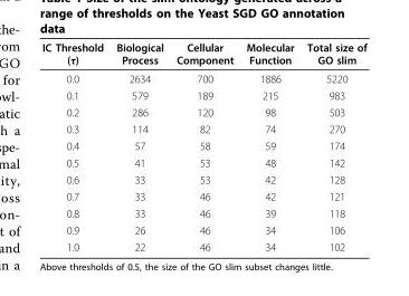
<table><thead><tr><td>IC Threshold (τ)</td><td>Biological Process</td><td>Cellular Component</td><td>Molecular Function</td><td>Total size of GO slim</td></tr></thead><tbody><tr><td>0.0</td><td>2634</td><td>700</td><td>1886</td><td>5220</td></tr><tr><td>0.1</td><td>579</td><td>189</td><td>215</td><td>983</td></tr><tr><td>0.2</td><td>286</td><td>120</td><td>98</td><td>503</td></tr><tr><td>0.3</td><td>114</td><td>82</td><td>74</td><td>270</td></tr><tr><td>0.4</td><td>57</td><td>58</td><td>59</td><td>174</td></tr><tr><td>0.5</td><td>41</td><td>53</td><td>48</td><td>142</td></tr><tr><td>0.6</td><td>33</td><td>53</td><td>42</td><td>128</td></tr><tr><td>0.7</td><td>33</td><td>46</td><td>42</td><td>121</td></tr><tr><td>0.8</td><td>33</td><td>46</td><td>39</td><td>118</td></tr><tr><td>0.9</td><td>26</td><td>46</td><td>34</td><td>106</td></tr><tr><td>1.0</td><td>22</td><td>46</td><td>34</td><td>102</td></tr></tbody></table>